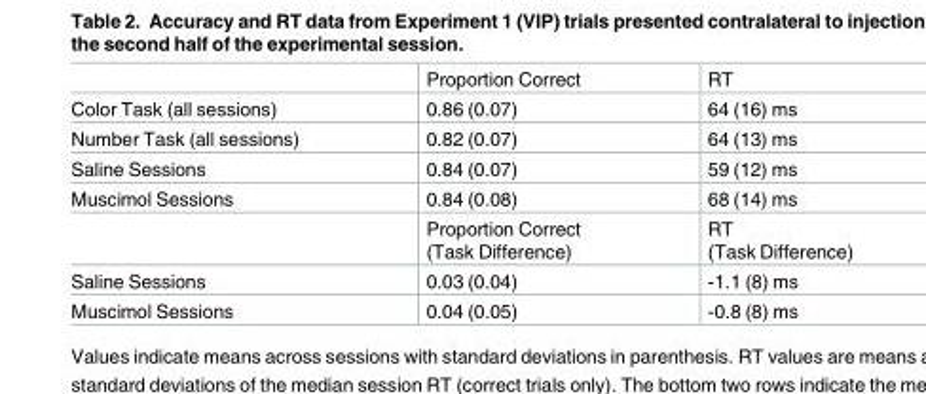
<table><thead><tr><td></td><td>Proportion Correct</td><td>RT</td></tr></thead><tbody><tr><td>Color Task (all sessions)</td><td>0.86 (0.07)</td><td>64 (16) ms</td></tr><tr><td>Number Task (all sessions)</td><td>0.82 (0.07)</td><td>64 (13) ms</td></tr><tr><td>Saline Sessions</td><td>0.84 (0.07)</td><td>59 (12) ms</td></tr><tr><td rowspan="2">Muscimol Sessions</td><td>0.84 (0.08)</td><td>68 (14) ms</td></tr><tr><td>Proportion Correct (Task Difference)</td><td>RT (Task Difference)</td></tr><tr><td>Saline Sessions</td><td>0.03 (0.04)</td><td>-1.1 (8) ms</td></tr><tr><td>Muscimol Sessions</td><td>0.04 (0.05)</td><td>-0.8 (8) ms</td></tr></tbody></table>